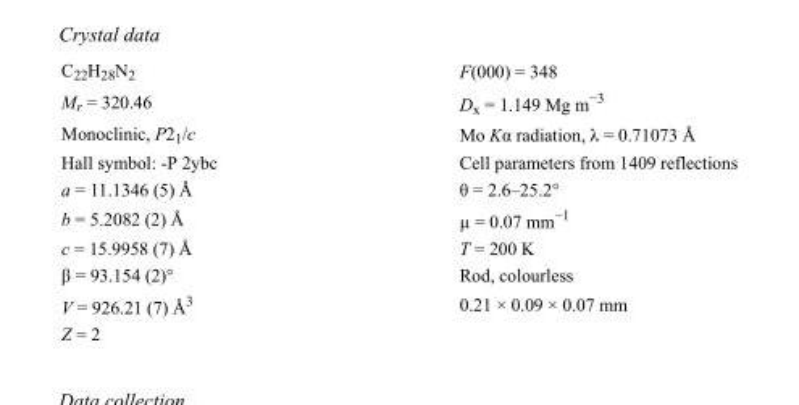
<table><tbody><tr><td>C<sub>22</sub>H<sub>28</sub>N<sub>2</sub></td><td>F(000) = 348</td></tr><tr><td>M<sub>r</sub> = 320.46</td><td>D<sub>x</sub> = 1.149 Mg m<sup>−3</sup></td></tr><tr><td>Monoclinic, P2<sub>1</sub>/c</td><td>Mo Kα radiation, λ = 0.71073 Å</td></tr><tr><td>Hall symbol: -P 2ybc</td><td>Cell parameters from 1409 reflections</td></tr><tr><td>a = 11.1346 (5) Å</td><td>θ = 2.6–25.2°</td></tr><tr><td>b = 5.2082 (2) Å</td><td>µ = 0.07 mm<sup>−1</sup></td></tr><tr><td>c = 15.9958 (7) Å</td><td>T = 200 K</td></tr><tr><td>β = 93.154 (2)°</td><td>Rod, colourless</td></tr><tr><td>V = 926.21 (7) Å<sup>3</sup></td><td>0.21 × 0.09 × 0.07 mm</td></tr><tr><td>Z = 2</td><td></td></tr></tbody></table>